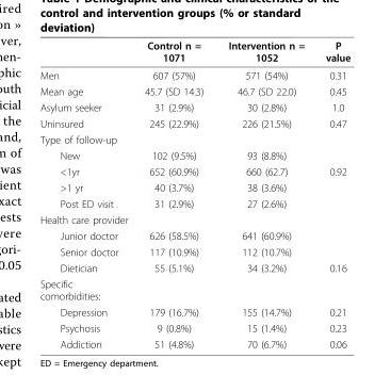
<table><thead><tr><td></td><td>Control n = 1071</td><td>Intervention n = 1052</td><td>P value</td></tr></thead><tbody><tr><td>Men</td><td>607 (57%)</td><td>571 (54%)</td><td>0.31</td></tr><tr><td>Mean age</td><td>45.7 (SD 14.3)</td><td>46.7 (SD 22.0)</td><td>0.45</td></tr><tr><td>Asylum seeker</td><td>31 (2.9%)</td><td>30 (2.8%)</td><td>1.0</td></tr><tr><td>Uninsured</td><td>245 (22.9%)</td><td>226 (21.5%)</td><td>0.47</td></tr><tr><td colspan="4">Type of follow-up</td></tr><tr><td>New</td><td>102 (9.5%)</td><td>93 (8.8%)</td><td></td></tr><tr><td>&lt;1yr</td><td>652 (60.9%)</td><td>660 (62.7)</td><td>0.92</td></tr><tr><td>&gt;1 yr</td><td>40 (3.7%)</td><td>38 (3.6%)</td><td></td></tr><tr><td>Post ED visit</td><td>31 (2.9%)</td><td>27 (2.6%)</td><td></td></tr><tr><td colspan="4">Health care provider</td></tr><tr><td>Junior doctor</td><td>626 (58.5%)</td><td>641 (60.9%)</td><td></td></tr><tr><td>Senior doctor</td><td>117 (10.9%)</td><td>112 (10.7%)</td><td></td></tr><tr><td>Dietician</td><td>55 (5.1%)</td><td>34 (3.2%)</td><td>0.16</td></tr><tr><td colspan="4">Specific comorbidities:</td></tr><tr><td>Depression</td><td>179 (16.7%)</td><td>155 (14.7%)</td><td>0.21</td></tr><tr><td>Psychosis</td><td>9 (0.8%)</td><td>15 (1.4%)</td><td>0.23</td></tr><tr><td>Addiction</td><td>51 (4.8%)</td><td>70 (6.7%)</td><td>0.06</td></tr></tbody></table>